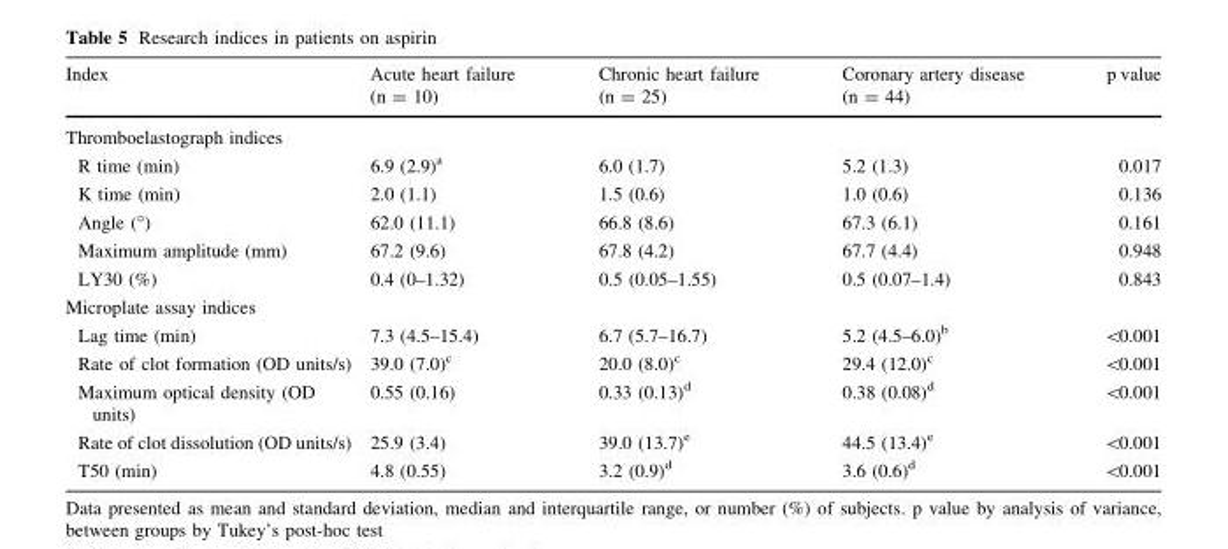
<table><thead><tr><td>Index</td><td>Acute heart failure (n = 10)</td><td>Chronic heart failure (n = 25)</td><td>Coronary artery disease (n = 44)</td><td>p value</td></tr></thead><tbody><tr><td colspan="5">Thromboelastograph indices</td></tr><tr><td>R time (min)</td><td>6.9 (2.9)<sup>a</sup></td><td>6.0 (1.7)</td><td>5.2 (1.3)</td><td>0.017</td></tr><tr><td>K time (min)</td><td>2.0 (1.1)</td><td>1.5 (0.6)</td><td>1.0 (0.6)</td><td>0.136</td></tr><tr><td>Angle (°)</td><td>62.0 (11.1)</td><td>66.8 (8.6)</td><td>67.3 (6.1)</td><td>0.161</td></tr><tr><td>Maximum amplitude (mm)</td><td>67.2 (9.6)</td><td>67.8 (4.2)</td><td>67.7 (4.4)</td><td>0.948</td></tr><tr><td>LY30 (%)</td><td>0.4 (0–1.32)</td><td>0.5 (0.05–1.55)</td><td>0.5 (0.07–1.4)</td><td>0.843</td></tr><tr><td colspan="5">Microplate assay indices</td></tr><tr><td>Lag time (min)</td><td>7.3 (4.5–15.4)</td><td>6.7 (5.7–16.7)</td><td>5.2 (4.5–6.0)<sup>b</sup></td><td>&lt;0.001</td></tr><tr><td>Rate of clot formation (OD units/s)</td><td>39.0 (7.0)<sup>c</sup></td><td>20.0 (8.0)<sup>c</sup></td><td>29.4 (12.0)<sup>c</sup></td><td>&lt;0.001</td></tr><tr><td>Maximum optical density (OD units)</td><td>0.55 (0.16)</td><td>0.33 (0.13)<sup>d</sup></td><td>0.38 (0.08)<sup>d</sup></td><td>&lt;0.001</td></tr><tr><td>Rate of clot dissolution (OD units/s)</td><td>25.9 (3.4)</td><td>39.0 (13.7)<sup>e</sup></td><td>44.5 (13.4)<sup>e</sup></td><td>&lt;0.001</td></tr><tr><td>T50 (min)</td><td>4.8 (0.55)</td><td>3.2 (0.9)<sup>d</sup></td><td>3.6 (0.6)<sup>d</sup></td><td>&lt;0.001</td></tr></tbody></table>